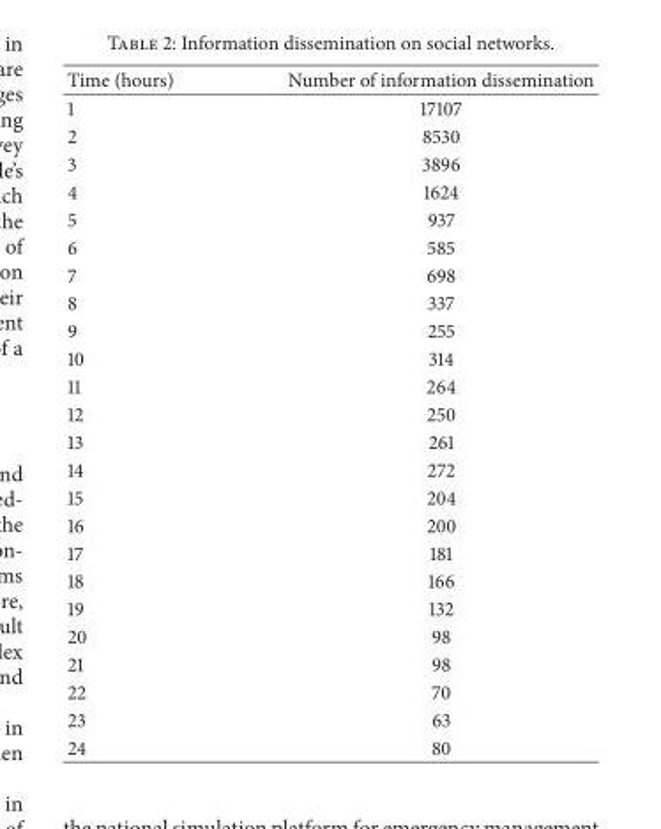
<table><thead><tr><td>Time (hours)</td><td>Number of information dissemination</td></tr></thead><tbody><tr><td>1</td><td>17107</td></tr><tr><td>2</td><td>8530</td></tr><tr><td>3</td><td>3896</td></tr><tr><td>4</td><td>1624</td></tr><tr><td>5</td><td>937</td></tr><tr><td>6</td><td>585</td></tr><tr><td>7</td><td>698</td></tr><tr><td>8</td><td>337</td></tr><tr><td>9</td><td>255</td></tr><tr><td>10</td><td>314</td></tr><tr><td>11</td><td>264</td></tr><tr><td>12</td><td>250</td></tr><tr><td>13</td><td>261</td></tr><tr><td>14</td><td>272</td></tr><tr><td>15</td><td>204</td></tr><tr><td>16</td><td>200</td></tr><tr><td>17</td><td>181</td></tr><tr><td>18</td><td>166</td></tr><tr><td>19</td><td>132</td></tr><tr><td>20</td><td>98</td></tr><tr><td>21</td><td>98</td></tr><tr><td>22</td><td>70</td></tr><tr><td>23</td><td>63</td></tr><tr><td>24</td><td>80</td></tr></tbody></table>